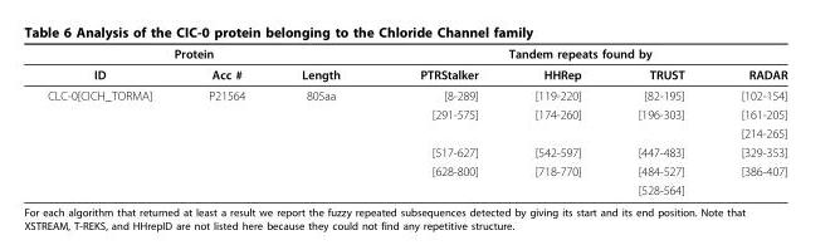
<table><thead><tr><td colspan="3">Protein</td><td colspan="4">Tandem repeats found by</td></tr><tr><td>ID</td><td>Acc #</td><td>Length</td><td>PTRStalker</td><td>HHRep</td><td>TRUST</td><td>RADAR</td></tr></thead><tbody><tr><td rowspan="6">CLC-0[CICH_TORMA]</td><td>P21564</td><td>805aa</td><td>[8-289]</td><td>[119-220]</td><td>[82-195]</td><td>[102-154]</td></tr><tr><td></td><td></td><td>[291-575]</td><td>[174-260]</td><td>[196-303]</td><td>[161-205]</td></tr><tr><td></td><td></td><td></td><td></td><td></td><td>[214-265]</td></tr><tr><td></td><td></td><td>[517-627]</td><td>[542-597]</td><td>[447-483]</td><td>[329-353]</td></tr><tr><td></td><td></td><td>[628-800]</td><td>[718-770]</td><td>[484-527]</td><td>[386-407]</td></tr><tr><td></td><td></td><td></td><td></td><td>[528-564]</td><td></td></tr></tbody></table>